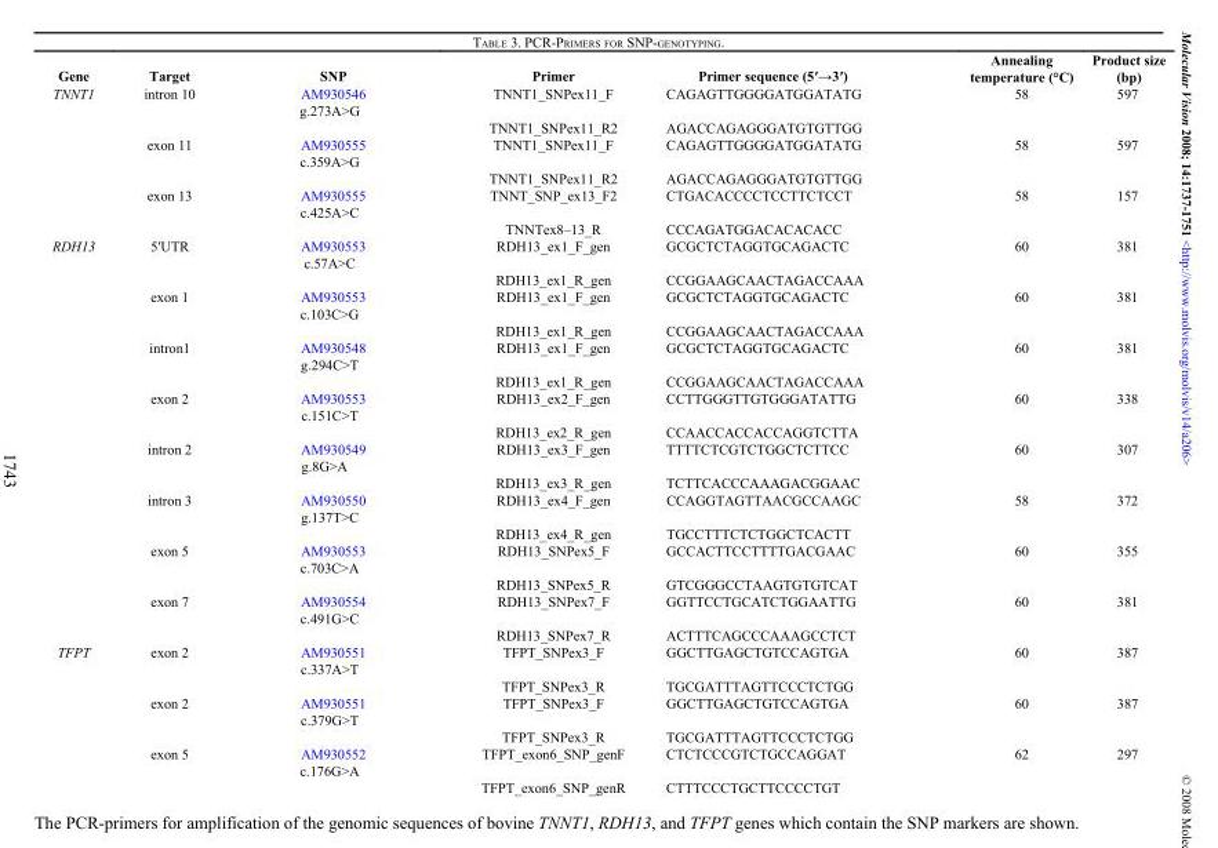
<table><thead><tr><td>Gene</td><td>Target</td><td>SNP</td><td>Primer</td><td>Primer sequence (5′→3′)</td><td>Annealing temperature (°C)</td><td>Product size (bp)</td></tr></thead><tbody><tr><td rowspan="6">TNNT1</td><td>intron 10</td><td>AM930546 g.273A&gt;G</td><td>TNNT1_SNPex11_F</td><td>CAGAGTTGGGGATGGATATG</td><td>58</td><td>597</td></tr><tr><td></td><td></td><td>TNNT1_SNPex11_R2</td><td>AGACCAGAGGGATGTGTTGG</td><td></td><td></td></tr><tr><td>exon 11</td><td>AM930555 c.359A&gt;G</td><td>TNNT1_SNPex11_F</td><td>CAGAGTTGGGGATGGATATG</td><td>58</td><td>597</td></tr><tr><td></td><td></td><td>TNNT1_SNPex11_R2</td><td>AGACCAGAGGGATGTGTTGG</td><td></td><td></td></tr><tr><td>exon 13</td><td>AM930555 c.425A&gt;C</td><td>TNNT_SNP_ex13_F2</td><td>CTGACACCCCTCCTTCTCCT</td><td>58</td><td>157</td></tr><tr><td></td><td></td><td>TNNTex8–13_R</td><td>CCCAGATGGACACACACC</td><td></td><td></td></tr><tr><td rowspan="16">RDH13</td><td>5′UTR</td><td>AM930553 c.57A&gt;C</td><td>RDH13_ex1_F_gen</td><td>GCGCTCTAGGTGCAGACTC</td><td>60</td><td>381</td></tr><tr><td></td><td></td><td>RDH13_ex1_R_gen</td><td>CCGGAAGCAACTAGACCAAA</td><td></td><td></td></tr><tr><td>exon 1</td><td>AM930553 c.103C&gt;G</td><td>RDH13_ex1_F_gen</td><td>GCGCTCTAGGTGCAGACTC</td><td>60</td><td>381</td></tr><tr><td></td><td></td><td>RDH13_ex1_R_gen</td><td>CCGGAAGCAACTAGACCAAA</td><td></td><td></td></tr><tr><td>intron1</td><td>AM930548 g.294C&gt;T</td><td>RDH13_ex1_F_gen</td><td>GCGCTCTAGGTGCAGACTC</td><td>60</td><td>381</td></tr><tr><td></td><td></td><td>RDH13_ex1_R_gen</td><td>CCGGAAGCAACTAGACCAAA</td><td></td><td></td></tr><tr><td>exon 2</td><td>AM930553 c.151C&gt;T</td><td>RDH13_ex2_F_gen</td><td>CCTTGGGTTGTGGGATATTG</td><td>60</td><td>338</td></tr><tr><td></td><td></td><td>RDH13_ex2_R_gen</td><td>CCAACCACCACCAGGTCTTA</td><td></td><td></td></tr><tr><td>intron 2</td><td>AM930549 g.8G&gt;A</td><td>RDH13_ex3_F_gen</td><td>TTTTCTCGTCTGGCTCTTCC</td><td>60</td><td>307</td></tr><tr><td></td><td></td><td>RDH13_ex3_R_gen</td><td>TCTTCACCCAAAGACGGAAC</td><td></td><td></td></tr><tr><td>intron 3</td><td>AM930550 g.137T&gt;C</td><td>RDH13_ex4_F_gen</td><td>CCAGGTAGTTAACGCCAAGC</td><td>58</td><td>372</td></tr><tr><td></td><td></td><td>RDH13_ex4_R_gen</td><td>TGCCTTTCTCTGGCTCACTT</td><td></td><td></td></tr><tr><td>exon 5</td><td>AM930553 c.703C&gt;A</td><td>RDH13_SNPex5_F</td><td>GCCACTTCCTTTTGACGAAC</td><td>60</td><td>355</td></tr><tr><td></td><td></td><td>RDH13_SNPex5_R</td><td>GTCGGGCCTAAGTGTGTCAT</td><td></td><td></td></tr><tr><td>exon 7</td><td>AM930554 c.491G&gt;C</td><td>RDH13_SNPex7_F</td><td>GGTTCCTGCATCTGGAATTG</td><td>60</td><td>381</td></tr><tr><td></td><td></td><td>RDH13_SNPex7_R</td><td>ACTTTCAGCCCAAAGCCTCT</td><td></td><td></td></tr><tr><td rowspan="6">TFPT</td><td>exon 2</td><td>AM930551 c.337A&gt;T</td><td>TFPT_SNPex3_F</td><td>GGCTTGAGCTGTCCAGTGA</td><td>60</td><td>387</td></tr><tr><td></td><td></td><td>TFPT_SNPex3_R</td><td>TGCGATTTAGTTCCCTCTGG</td><td></td><td></td></tr><tr><td>exon 2</td><td>AM930551 c.379G&gt;T</td><td>TFPT_SNPex3_F</td><td>GGCTTGAGCTGTCCAGTGA</td><td>60</td><td>387</td></tr><tr><td></td><td></td><td>TFPT_SNPex3_R</td><td>TGCGATTTAGTTCCCTCTGG</td><td></td><td></td></tr><tr><td>exon 5</td><td>AM930552 c.176G&gt;A</td><td>TFPT_exon6_SNP_genF</td><td>CTCTCCCGTCTGCCAGGAT</td><td>62</td><td>297</td></tr><tr><td></td><td></td><td>TFPT_exon6_SNP_genR</td><td>CTTTCCCTGCTTCCCCTGT</td><td></td><td></td></tr></tbody></table>